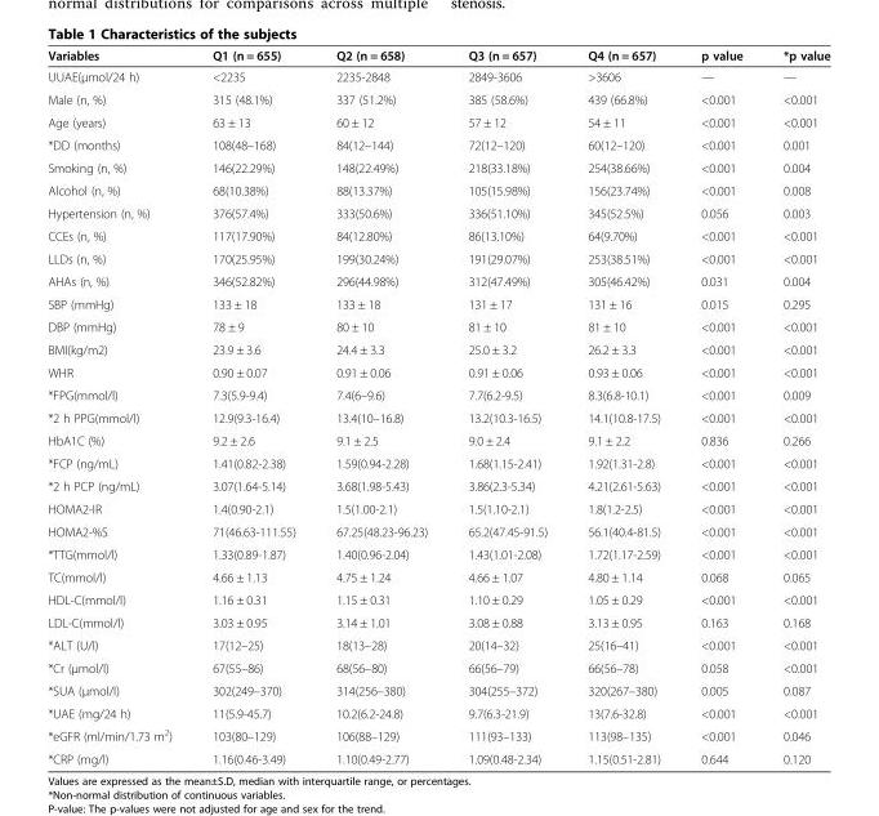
<table><thead><tr><td>Variables</td><td>Q1 (n = 655)</td><td>Q2 (n = 658)</td><td>Q3 (n = 657)</td><td>Q4 (n = 657)</td><td>p value</td><td>*p value</td></tr></thead><tbody><tr><td>UUAE(μmol/24 h)</td><td>&lt;2235</td><td>2235-2848</td><td>2849-3606</td><td>&gt;3606</td><td>—</td><td>—</td></tr><tr><td>Male (n, %)</td><td>315 (48.1%)</td><td>337 (51.2%)</td><td>385 (58.6%)</td><td>439 (66.8%)</td><td>&lt;0.001</td><td>&lt;0.001</td></tr><tr><td>Age (years)</td><td>63 ± 13</td><td>60 ± 12</td><td>57 ± 12</td><td>54 ± 11</td><td>&lt;0.001</td><td>&lt;0.001</td></tr><tr><td>*DD (months)</td><td>108(48–168)</td><td>84(12–144)</td><td>72(12–120)</td><td>60(12–120)</td><td>&lt;0.001</td><td>0.001</td></tr><tr><td>Smoking (n, %)</td><td>146(22.29%)</td><td>148(22.49%)</td><td>218(33.18%)</td><td>254(38.66%)</td><td>&lt;0.001</td><td>0.004</td></tr><tr><td>Alcohol (n, %)</td><td>68(10.38%)</td><td>88(13.37%)</td><td>105(15.98%)</td><td>156(23.74%)</td><td>&lt;0.001</td><td>0.008</td></tr><tr><td>Hypertension (n, %)</td><td>376(57.4%)</td><td>333(50.6%)</td><td>336(51.10%)</td><td>345(52.5%)</td><td>0.056</td><td>0.003</td></tr><tr><td>CCEs (n, %)</td><td>117(17.90%)</td><td>84(12.80%)</td><td>86(13.10%)</td><td>64(9.70%)</td><td>&lt;0.001</td><td>&lt;0.001</td></tr><tr><td>LLDs (n, %)</td><td>170(25.95%)</td><td>199(30.24%)</td><td>191(29.07%)</td><td>253(38.51%)</td><td>&lt;0.001</td><td>&lt;0.001</td></tr><tr><td>AHAs (n, %)</td><td>346(52.82%)</td><td>296(44.98%)</td><td>312(47.49%)</td><td>305(46.42%)</td><td>0.031</td><td>0.004</td></tr><tr><td>SBP (mmHg)</td><td>133 ± 18</td><td>133 ± 18</td><td>131 ± 17</td><td>131 ± 16</td><td>0.015</td><td>0.295</td></tr><tr><td>DBP (mmHg)</td><td>78 ± 9</td><td>80 ± 10</td><td>81 ± 10</td><td>81 ± 10</td><td>&lt;0.001</td><td>&lt;0.001</td></tr><tr><td>BMI(kg/m2)</td><td>23.9 ± 3.6</td><td>24.4 ± 3.3</td><td>25.0 ± 3.2</td><td>26.2 ± 3.3</td><td>&lt;0.001</td><td>&lt;0.001</td></tr><tr><td>WHR</td><td>0.90 ± 0.07</td><td>0.91 ± 0.06</td><td>0.91 ± 0.06</td><td>0.93 ± 0.06</td><td>&lt;0.001</td><td>&lt;0.001</td></tr><tr><td>*FPG(mmol/l)</td><td>7.3(5.9-9.4)</td><td>7.4(6–9.6)</td><td>7.7(6.2-9.5)</td><td>8.3(6.8-10.1)</td><td>&lt;0.001</td><td>0.009</td></tr><tr><td>*2 h PPG(mmol/l)</td><td>12.9(9.3-16.4)</td><td>13.4(10–16.8)</td><td>13.2(10.3-16.5)</td><td>14.1(10.8-17.5)</td><td>&lt;0.001</td><td>&lt;0.001</td></tr><tr><td>HbA1C (%)</td><td>9.2 ± 2.6</td><td>9.1 ± 2.5</td><td>9.0 ± 2.4</td><td>9.1 ± 2.2</td><td>0.836</td><td>0.266</td></tr><tr><td>*FCP (ng/mL)</td><td>1.41(0.82-2.38)</td><td>1.59(0.94-2.28)</td><td>1.68(1.15-2.41)</td><td>1.92(1.31-2.8)</td><td>&lt;0.001</td><td>&lt;0.001</td></tr><tr><td>*2 h PCP (ng/mL)</td><td>3.07(1.64-5.14)</td><td>3.68(1.98-5.43)</td><td>3.86(2.3-5.34)</td><td>4.21(2.61-5.63)</td><td>&lt;0.001</td><td>&lt;0.001</td></tr><tr><td>HOMA2-IR</td><td>1.4(0.90-2.1)</td><td>1.5(1.00-2.1)</td><td>1.5(1.10-2.1)</td><td>1.8(1.2-2.5)</td><td>&lt;0.001</td><td>&lt;0.001</td></tr><tr><td>HOMA2-%S</td><td>71(46.63-111.55)</td><td>67.25(48.23-96.23)</td><td>65.2(47.45-91.5)</td><td>56.1(40.4-81.5)</td><td>&lt;0.001</td><td>&lt;0.001</td></tr><tr><td>*TTG(mmol/l)</td><td>1.33(0.89-1.87)</td><td>1.40(0.96-2.04)</td><td>1.43(1.01-2.08)</td><td>1.72(1.17-2.59)</td><td>&lt;0.001</td><td>&lt;0.001</td></tr><tr><td>TC(mmol/l)</td><td>4.66 ± 1.13</td><td>4.75 ± 1.24</td><td>4.66 ± 1.07</td><td>4.80 ± 1.14</td><td>0.068</td><td>0.065</td></tr><tr><td>HDL-C(mmol/l)</td><td>1.16 ± 0.31</td><td>1.15 ± 0.31</td><td>1.10 ± 0.29</td><td>1.05 ± 0.29</td><td>&lt;0.001</td><td>&lt;0.001</td></tr><tr><td>LDL-C(mmol/l)</td><td>3.03 ± 0.95</td><td>3.14 ± 1.01</td><td>3.08 ± 0.88</td><td>3.13 ± 0.95</td><td>0.163</td><td>0.168</td></tr><tr><td>*ALT (U/l)</td><td>17(12–25)</td><td>18(13–28)</td><td>20(14–32)</td><td>25(16–41)</td><td>&lt;0.001</td><td>&lt;0.001</td></tr><tr><td>*Cr (μmol/l)</td><td>67(55–86)</td><td>68(56–80)</td><td>66(56–79)</td><td>66(56–78)</td><td>0.058</td><td>&lt;0.001</td></tr><tr><td>*SUA (μmol/l)</td><td>302(249–370)</td><td>314(256–380)</td><td>304(255–372)</td><td>320(267–380)</td><td>0.005</td><td>0.087</td></tr><tr><td>*UAE (mg/24 h)</td><td>11(5.9-45.7)</td><td>10.2(6.2-24.8)</td><td>9.7(6.3-21.9)</td><td>13(7.6-32.8)</td><td>&lt;0.001</td><td>&lt;0.001</td></tr><tr><td>*eGFR (ml/min/1.73 m<sup>2</sup>)</td><td>103(80–129)</td><td>106(88–129)</td><td>111(93–133)</td><td>113(98–135)</td><td>&lt;0.001</td><td>0.046</td></tr><tr><td>*CRP (mg/l)</td><td>1.16(0.46-3.49)</td><td>1.10(0.49-2.77)</td><td>1.09(0.48-2.34)</td><td>1.15(0.51-2.81)</td><td>0.644</td><td>0.120</td></tr></tbody></table>